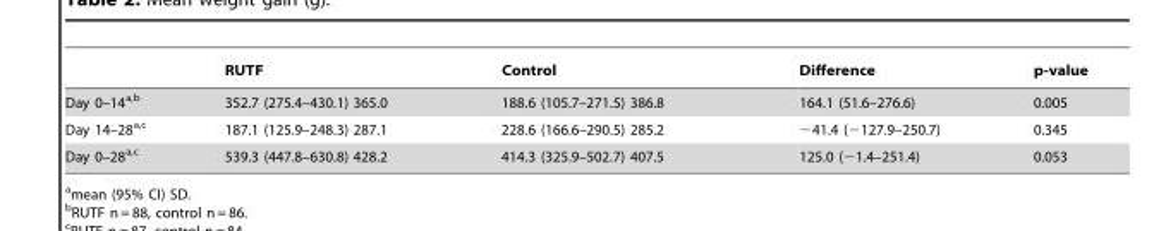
<table><thead><tr><td></td><td>RUTF</td><td>Control</td><td>Difference</td><td>p-value</td></tr></thead><tbody><tr><td>Day 0–14a,b</td><td>352.7 (275.4–430.1) 365.0</td><td>188.6 (105.7–271.5) 386.8</td><td>164.1 (51.6–276.6)</td><td>0.005</td></tr><tr><td>Day 14–28a,c</td><td>187.1 (125.9–248.3) 287.1</td><td>228.6 (166.6–290.5) 285.2</td><td>−41.4 (−127.9–250.7)</td><td>0.345</td></tr><tr><td>Day 0–28a,c</td><td>539.3 (447.8–630.8) 428.2</td><td>414.3 (325.9–502.7) 407.5</td><td>125.0 (−1.4–251.4)</td><td>0.053</td></tr></tbody></table>